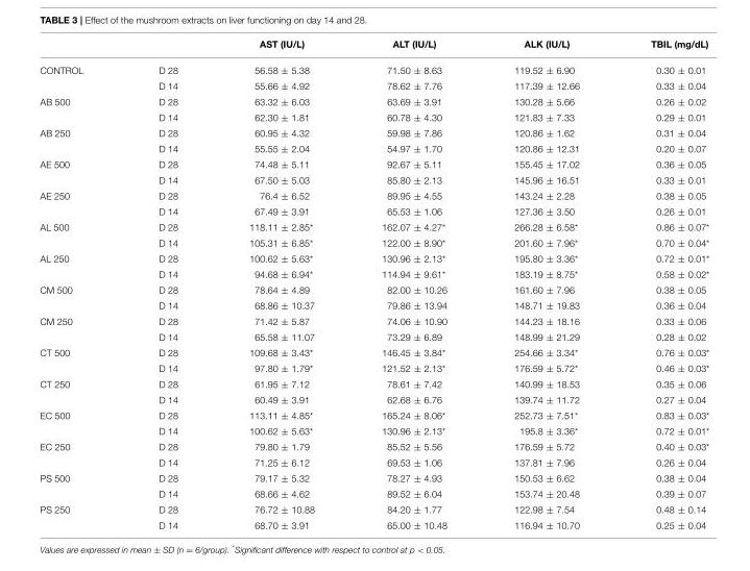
<table><thead><tr><td></td><td></td><td>AST (IU/L)</td><td>ALT (IU/L)</td><td>ALK (IU/L)</td><td>TBIL (mg/dL)</td></tr></thead><tbody><tr><td rowspan="2">CONTROL</td><td>D 28</td><td>56.58 ± 5.38</td><td>71.50 ± 8.63</td><td>119.52 ± 6.90</td><td>0.30 ± 0.01</td></tr><tr><td>D 14</td><td>55.66 ± 4.92</td><td>78.62 ± 7.76</td><td>117.39 ± 12.66</td><td>0.33 ± 0.04</td></tr><tr><td rowspan="2">AB 500</td><td>D 28</td><td>63.32 ± 6.03</td><td>63.69 ± 3.91</td><td>130.28 ± 5.66</td><td>0.26 ± 0.02</td></tr><tr><td>D 14</td><td>62.30 ± 1.81</td><td>60.78 ± 4.30</td><td>121.83 ± 7.33</td><td>0.29 ± 0.01</td></tr><tr><td rowspan="2">AB 250</td><td>D 28</td><td>60.95 ± 4.32</td><td>59.98 ± 7.86</td><td>120.86 ± 1.62</td><td>0.31 ± 0.04</td></tr><tr><td>D 14</td><td>55.55 ± 2.04</td><td>54.97 ± 1.70</td><td>120.86 ± 12.31</td><td>0.20 ± 0.07</td></tr><tr><td rowspan="2">AE 500</td><td>D 28</td><td>74.48 ± 5.11</td><td>92.67 ± 5.11</td><td>155.45 ± 17.02</td><td>0.36 ± 0.05</td></tr><tr><td>D 14</td><td>67.50 ± 5.03</td><td>85.80 ± 2.13</td><td>145.96 ± 16.51</td><td>0.33 ± 0.01</td></tr><tr><td rowspan="2">AE 250</td><td>D 28</td><td>76.4 ± 6.52</td><td>89.95 ± 4.55</td><td>143.24 ± 2.28</td><td>0.38 ± 0.05</td></tr><tr><td>D 14</td><td>67.49 ± 3.91</td><td>65.53 ± 1.06</td><td>127.36 ± 3.50</td><td>0.26 ± 0.01</td></tr><tr><td rowspan="2">AL 500</td><td>D 28</td><td>118.11 ± 2.85*</td><td>162.07 ± 4.27*</td><td>266.28 ± 6.58*</td><td>0.86 ± 0.07*</td></tr><tr><td>D 14</td><td>105.31 ± 6.85*</td><td>122.00 ± 8.90*</td><td>201.60 ± 7.96*</td><td>0.70 ± 0.04*</td></tr><tr><td rowspan="2">AL 250</td><td>D 28</td><td>100.62 ± 5.63*</td><td>130.96 ± 2.13*</td><td>195.80 ± 3.36*</td><td>0.72 ± 0.01*</td></tr><tr><td>D 14</td><td>94.68 ± 6.94*</td><td>114.94 ± 9.61*</td><td>183.19 ± 8.75*</td><td>0.58 ± 0.02*</td></tr><tr><td rowspan="2">CM 500</td><td>D 28</td><td>78.64 ± 4.89</td><td>82.00 ± 10.26</td><td>161.60 ± 7.96</td><td>0.38 ± 0.05</td></tr><tr><td>D 14</td><td>68.86 ± 10.37</td><td>79.86 ± 13.94</td><td>148.71 ± 19.83</td><td>0.36 ± 0.04</td></tr><tr><td rowspan="2">CM 250</td><td>D 28</td><td>71.42 ± 5.87</td><td>74.06 ± 10.90</td><td>144.23 ± 18.16</td><td>0.33 ± 0.06</td></tr><tr><td>D 14</td><td>65.58 ± 11.07</td><td>73.29 ± 6.89</td><td>148.99 ± 21.29</td><td>0.28 ± 0.02</td></tr><tr><td rowspan="2">CT 500</td><td>D 28</td><td>109.68 ± 3.43*</td><td>146.45 ± 3.84*</td><td>254.66 ± 3.34*</td><td>0.76 ± 0.03*</td></tr><tr><td>D 14</td><td>97.80 ± 1.79*</td><td>121.52 ± 2.13*</td><td>176.59 ± 5.72*</td><td>0.46 ± 0.03*</td></tr><tr><td rowspan="2">CT 250</td><td>D 28</td><td>61.95 ± 7.12</td><td>78.61 ± 7.42</td><td>140.99 ± 18.53</td><td>0.35 ± 0.06</td></tr><tr><td>D 14</td><td>60.49 ± 3.91</td><td>62.68 ± 6.76</td><td>139.74 ± 11.72</td><td>0.27 ± 0.04</td></tr><tr><td rowspan="2">EC 500</td><td>D 28</td><td>113.11 ± 4.85*</td><td>165.24 ± 8.06*</td><td>252.73 ± 7.51*</td><td>0.83 ± 0.03*</td></tr><tr><td>D 14</td><td>100.62 ± 5.63*</td><td>130.96 ± 2.13*</td><td>195.8 ± 3.36*</td><td>0.72 ± 0.01*</td></tr><tr><td rowspan="2">EC 250</td><td>D 28</td><td>79.80 ± 1.79</td><td>85.52 ± 5.56</td><td>176.59 ± 5.72</td><td>0.40 ± 0.03*</td></tr><tr><td>D 14</td><td>71.25 ± 6.12</td><td>69.53 ± 1.06</td><td>137.81 ± 7.96</td><td>0.26 ± 0.04</td></tr><tr><td rowspan="2">PS 500</td><td>D 28</td><td>79.17 ± 5.32</td><td>78.27 ± 4.93</td><td>150.53 ± 6.62</td><td>0.38 ± 0.04</td></tr><tr><td>D 14</td><td>68.66 ± 4.62</td><td>89.52 ± 6.04</td><td>153.74 ± 20.48</td><td>0.39 ± 0.07</td></tr><tr><td rowspan="2">PS 250</td><td>D 28</td><td>76.72 ± 10.88</td><td>84.20 ± 1.77</td><td>122.98 ± 7.54</td><td>0.48 ± 0.14</td></tr><tr><td>D 14</td><td>68.70 ± 3.91</td><td>65.00 ± 10.48</td><td>116.94 ± 10.70</td><td>0.25 ± 0.04</td></tr></tbody></table>